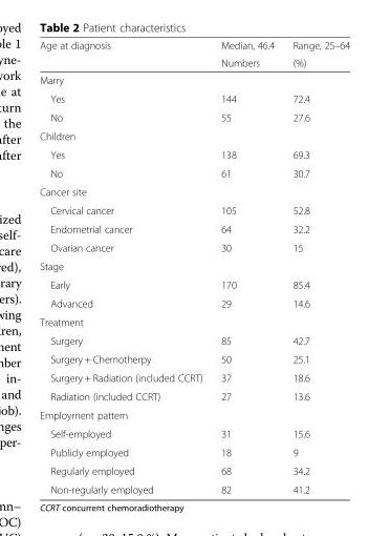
<table><thead><tr><td rowspan="2">Age at diagnosis</td><td rowspan="2">Median, 46.4 Numbers</td><td rowspan="2">Range, 25–64 (%)</td></tr><tr></tr></thead><tbody><tr><td colspan="3">Marry</td></tr><tr><td>Yes</td><td>144</td><td>72.4</td></tr><tr><td>No</td><td>55</td><td>27.6</td></tr><tr><td colspan="3">Children</td></tr><tr><td>Yes</td><td>138</td><td>69.3</td></tr><tr><td>No</td><td>61</td><td>30.7</td></tr><tr><td colspan="3">Cancer site</td></tr><tr><td>Cervical cancer</td><td>105</td><td>52.8</td></tr><tr><td>Endometrial cancer</td><td>64</td><td>32.2</td></tr><tr><td>Ovarian cancer</td><td>30</td><td>15</td></tr><tr><td colspan="3">Stage</td></tr><tr><td>Early</td><td>170</td><td>85.4</td></tr><tr><td>Advanced</td><td>29</td><td>14.6</td></tr><tr><td colspan="3">Treatment</td></tr><tr><td>Surgery</td><td>85</td><td>42.7</td></tr><tr><td>Surgery + Chemotherpy</td><td>50</td><td>25.1</td></tr><tr><td>Surgery + Radiation (included CCRT)</td><td>37</td><td>18.6</td></tr><tr><td>Radiation (included CCRT)</td><td>27</td><td>13.6</td></tr><tr><td colspan="3">Employment pattern</td></tr><tr><td>Self-employed</td><td>31</td><td>15.6</td></tr><tr><td>Publicly employed</td><td>18</td><td>9</td></tr><tr><td>Regularly employed</td><td>68</td><td>34.2</td></tr><tr><td>Non-regularly employed</td><td>82</td><td>41.2</td></tr></tbody></table>